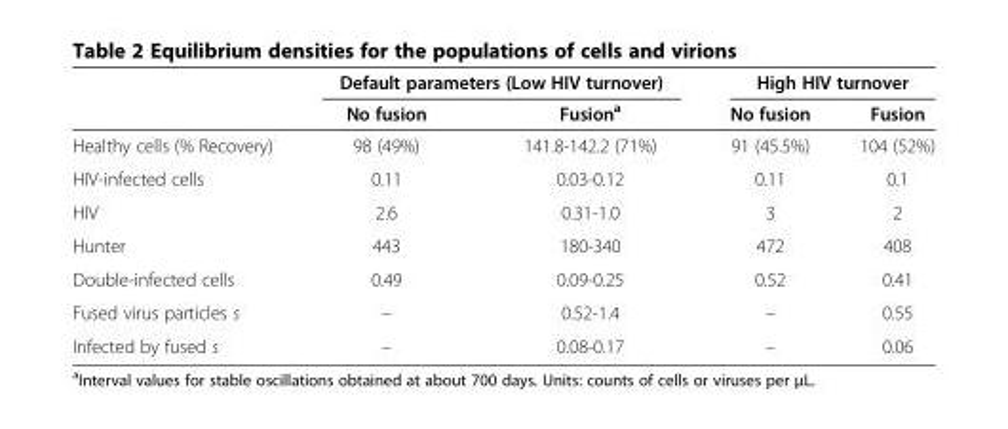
<table><thead><tr><td rowspan="2"></td><td colspan="2">Default parameters (Low HIV turnover)</td><td colspan="2">High HIV turnover</td></tr><tr><td>No fusion</td><td>Fusion<sup>a</sup></td><td>No fusion</td><td>Fusion</td></tr></thead><tbody><tr><td>Healthy cells (% Recovery)</td><td>98 (49%)</td><td>141.8-142.2 (71%)</td><td>91 (45.5%)</td><td>104 (52%)</td></tr><tr><td>HIV-infected cells</td><td>0.11</td><td>0.03-0.12</td><td>0.11</td><td>0.1</td></tr><tr><td>HIV</td><td>2.6</td><td>0.31-1.0</td><td>3</td><td>2</td></tr><tr><td>Hunter</td><td>443</td><td>180-340</td><td>472</td><td>408</td></tr><tr><td>Double-infected cells</td><td>0.49</td><td>0.09-0.25</td><td>0.52</td><td>0.41</td></tr><tr><td>Fused virus particles s</td><td>–</td><td>0.52-1.4</td><td>–</td><td>0.55</td></tr><tr><td>Infected by fused s</td><td>–</td><td>0.08-0.17</td><td>–</td><td>0.06</td></tr></tbody></table>